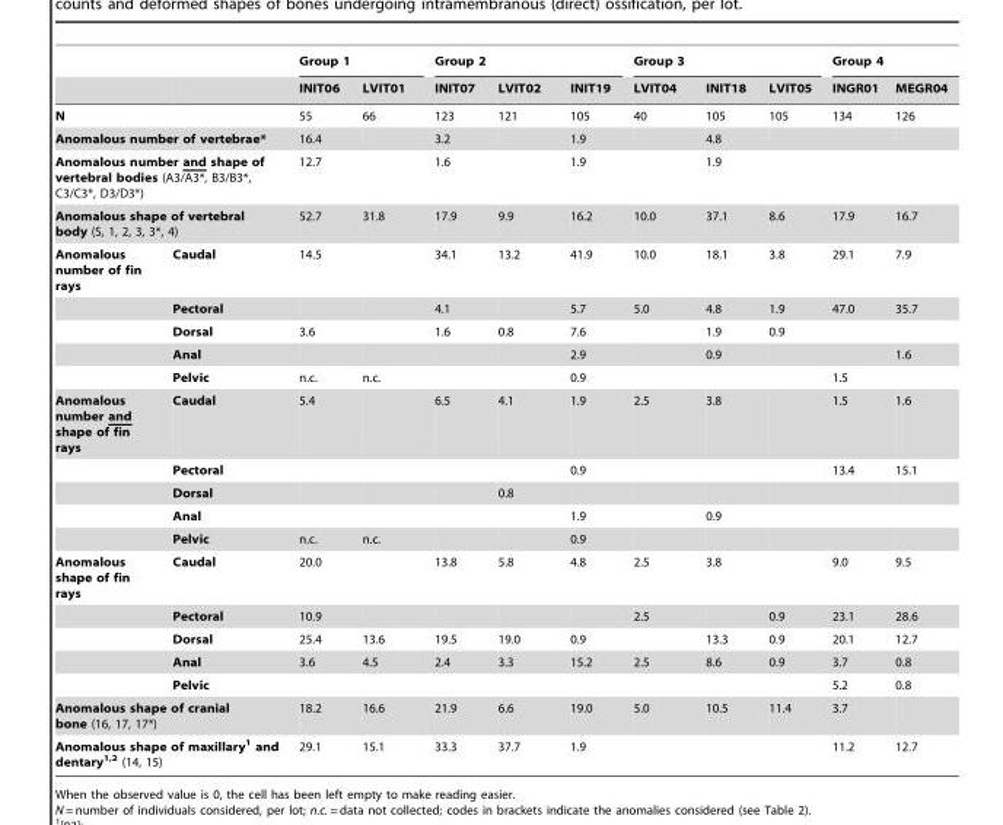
<table><thead><tr><td rowspan="2"></td><td rowspan="2"></td><td colspan="2">Group 1</td><td colspan="3">Group 2</td><td colspan="3">Group 3</td><td colspan="2">Group 4</td></tr><tr><td>INIT06</td><td>LVIT01</td><td>INIT07</td><td>LVIT02</td><td>INIT19</td><td>LVIT04</td><td>INIT18</td><td>LVIT05</td><td>INGR01</td><td>MEGR04</td></tr></thead><tbody><tr><td colspan="2">N</td><td>55</td><td>66</td><td>123</td><td>121</td><td>105</td><td>40</td><td>105</td><td>105</td><td>134</td><td>126</td></tr><tr><td colspan="2">Anomalous number of vertebrae*</td><td>16.4</td><td></td><td>3.2</td><td></td><td>1.9</td><td></td><td>4.8</td><td></td><td></td><td></td></tr><tr><td colspan="2">Anomalous number and shape of vertebral bodies (A3/A3*, B3/B3*, C3/C3*, D3/D3*)</td><td>12.7</td><td></td><td>1.6</td><td></td><td>1.9</td><td></td><td>1.9</td><td></td><td></td><td></td></tr><tr><td colspan="2">Anomalous shape of vertebral body (S, 1, 2, 3, 3*, 4)</td><td>52.7</td><td>31.8</td><td>17.9</td><td>9.9</td><td>16.2</td><td>10.0</td><td>37.1</td><td>8.6</td><td>17.9</td><td>16.7</td></tr><tr><td rowspan="5">Anomalous number of fin rays</td><td>Caudal</td><td>14.5</td><td></td><td>34.1</td><td>13.2</td><td>41.9</td><td>10.0</td><td>18.1</td><td>3.8</td><td>29.1</td><td>7.9</td></tr><tr><td>Pectoral</td><td></td><td></td><td>4.1</td><td></td><td>5.7</td><td>5.0</td><td>4.8</td><td>1.9</td><td>47.0</td><td>35.7</td></tr><tr><td>Dorsal</td><td>3.6</td><td></td><td>1.6</td><td>0.8</td><td>7.6</td><td></td><td>1.9</td><td>0.9</td><td></td><td></td></tr><tr><td>Anal</td><td></td><td></td><td></td><td></td><td>2.9</td><td></td><td>0.9</td><td></td><td></td><td>1.6</td></tr><tr><td>Pelvic</td><td>n.c.</td><td>n.c.</td><td></td><td></td><td>0.9</td><td></td><td></td><td></td><td>1.5</td><td></td></tr><tr><td rowspan="5">Anomalous number and shape of fin rays</td><td>Caudal</td><td>5.4</td><td></td><td>6.5</td><td>4.1</td><td>1.9</td><td>2.5</td><td>3.8</td><td></td><td>1.5</td><td>1.6</td></tr><tr><td>Pectoral</td><td></td><td></td><td></td><td></td><td>0.9</td><td></td><td></td><td></td><td>13.4</td><td>15.1</td></tr><tr><td>Dorsal</td><td></td><td></td><td></td><td>0.8</td><td></td><td></td><td></td><td></td><td></td><td></td></tr><tr><td>Anal</td><td></td><td></td><td></td><td></td><td>1.9</td><td></td><td>0.9</td><td></td><td></td><td></td></tr><tr><td>Pelvic</td><td>n.c.</td><td>n.c.</td><td></td><td></td><td>0.9</td><td></td><td></td><td></td><td></td><td></td></tr><tr><td rowspan="5">Anomalous shape of fin rays</td><td>Caudal</td><td>20.0</td><td></td><td>13.8</td><td>5.8</td><td>4.8</td><td>2.5</td><td>3.8</td><td></td><td>9.0</td><td>9.5</td></tr><tr><td>Pectoral</td><td>10.9</td><td></td><td></td><td></td><td></td><td>2.5</td><td></td><td>0.9</td><td>23.1</td><td>28.6</td></tr><tr><td>Dorsal</td><td>25.4</td><td>13.6</td><td>19.5</td><td>19.0</td><td>0.9</td><td></td><td>13.3</td><td>0.9</td><td>20.1</td><td>12.7</td></tr><tr><td>Anal</td><td>3.6</td><td>4.5</td><td>2.4</td><td>3.3</td><td>15.2</td><td>2.5</td><td>8.6</td><td>0.9</td><td>3.7</td><td>0.8</td></tr><tr><td>Pelvic</td><td></td><td></td><td></td><td></td><td></td><td></td><td></td><td></td><td>5.2</td><td>0.8</td></tr><tr><td colspan="2">Anomalous shape of cranial bone (16, 17, 17*)</td><td>18.2</td><td>16.6</td><td>21.9</td><td>6.6</td><td>19.0</td><td>5.0</td><td>10.5</td><td>11.4</td><td>3.7</td><td></td></tr><tr><td colspan="2">Anomalous shape of maxillary1 and dentary1<sup>,</sup>2 (14, 15)</td><td>29.1</td><td>15.1</td><td>33.3</td><td>37.7</td><td>1.9</td><td></td><td></td><td></td><td>11.2</td><td>12.7</td></tr></tbody></table>